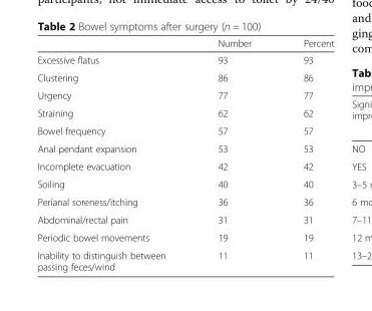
<table><thead><tr><td></td><td>Number</td><td>Percent</td></tr></thead><tbody><tr><td>Excessive flatus</td><td>93</td><td>93</td></tr><tr><td>Clustering</td><td>86</td><td>86</td></tr><tr><td>Urgency</td><td>77</td><td>77</td></tr><tr><td>Straining</td><td>62</td><td>62</td></tr><tr><td>Bowel frequency</td><td>57</td><td>57</td></tr><tr><td>Anal pendant expansion</td><td>53</td><td>53</td></tr><tr><td>Incomplete evacuation</td><td>42</td><td>42</td></tr><tr><td>Soiling</td><td>40</td><td>40</td></tr><tr><td>Perianal soreness/itching</td><td>36</td><td>36</td></tr><tr><td>Abdominal/rectal pain</td><td>31</td><td>31</td></tr><tr><td>Periodic bowel movements</td><td>19</td><td>19</td></tr><tr><td>Inability to distinguish between passing feces/wind</td><td>11</td><td>11</td></tr></tbody></table>